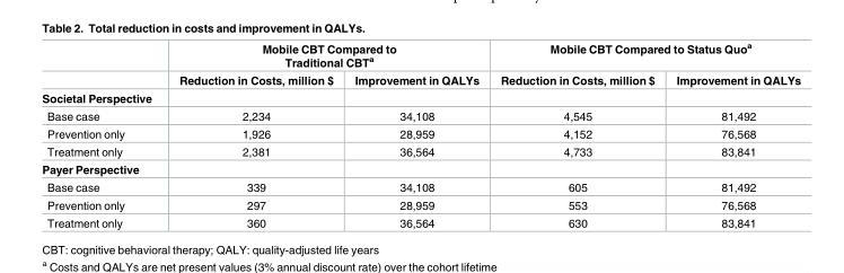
<table><thead><tr><td rowspan="2"></td><td colspan="2">Mobile CBT Compared to Traditional CBT<sup>a</sup></td><td colspan="2">Mobile CBT Compared to Status Quo<sup>a</sup></td></tr><tr><td>Reduction in Costs, million $</td><td>Improvement in QALYs</td><td>Reduction in Costs, million $</td><td>Improvement in QALYs</td></tr></thead><tbody><tr><td colspan="5">Societal Perspective</td></tr><tr><td>Base case</td><td>2,234</td><td>34,108</td><td>4,545</td><td>81,492</td></tr><tr><td>Prevention only</td><td>1,926</td><td>28,959</td><td>4,152</td><td>76,568</td></tr><tr><td>Treatment only</td><td>2,381</td><td>36,564</td><td>4,733</td><td>83,841</td></tr><tr><td colspan="5">Payer Perspective</td></tr><tr><td>Base case</td><td>339</td><td>34,108</td><td>605</td><td>81,492</td></tr><tr><td>Prevention only</td><td>297</td><td>28,959</td><td>553</td><td>76,568</td></tr><tr><td>Treatment only</td><td>360</td><td>36,564</td><td>630</td><td>83,841</td></tr></tbody></table>